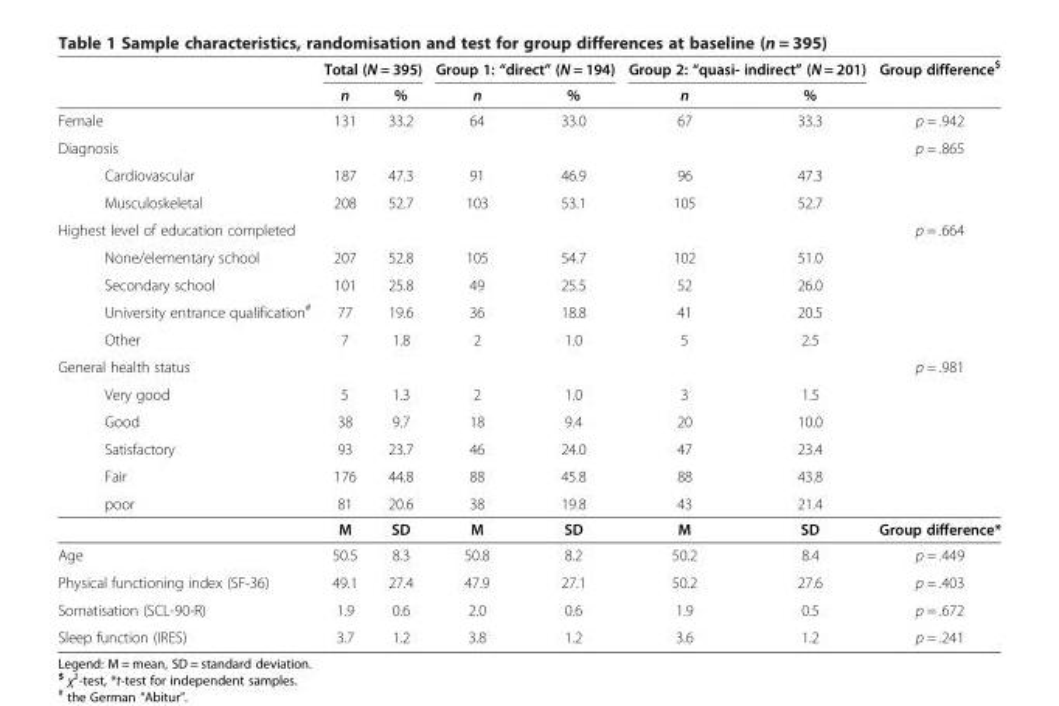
<table><thead><tr><td rowspan="2"></td><td colspan="2">Total (N = 395)</td><td colspan="2">Group 1: “direct” (N = 194)</td><td colspan="2">Group 2: “quasi- indirect” (N = 201)</td><td rowspan="2">Group difference<sup>$</sup></td></tr><tr><td>n</td><td>%</td><td>n</td><td>%</td><td>n</td><td>%</td></tr></thead><tbody><tr><td>Female</td><td>131</td><td>33.2</td><td>64</td><td>33.0</td><td>67</td><td>33.3</td><td>p = .942</td></tr><tr><td colspan="7">Diagnosis</td><td rowspan="3">p = .865</td></tr><tr><td>Cardiovascular</td><td>187</td><td>47.3</td><td>91</td><td>46.9</td><td>96</td><td>47.3</td></tr><tr><td>Musculoskeletal</td><td>208</td><td>52.7</td><td>103</td><td>53.1</td><td>105</td><td>52.7</td></tr><tr><td colspan="7">Highest level of education completed</td><td rowspan="5">p = .664</td></tr><tr><td>None/elementary school</td><td>207</td><td>52.8</td><td>105</td><td>54.7</td><td>102</td><td>51.0</td></tr><tr><td>Secondary school</td><td>101</td><td>25.8</td><td>49</td><td>25.5</td><td>52</td><td>26.0</td></tr><tr><td>University entrance qualification<sup>#</sup></td><td>77</td><td>19.6</td><td>36</td><td>18.8</td><td>41</td><td>20.5</td></tr><tr><td>Other</td><td>7</td><td>1.8</td><td>2</td><td>1.0</td><td>5</td><td>2.5</td></tr><tr><td colspan="7">General health status</td><td rowspan="6">p = .981</td></tr><tr><td>Very good</td><td>5</td><td>1.3</td><td>2</td><td>1.0</td><td>3</td><td>1.5</td></tr><tr><td>Good</td><td>38</td><td>9.7</td><td>18</td><td>9.4</td><td>20</td><td>10.0</td></tr><tr><td>Satisfactory</td><td>93</td><td>23.7</td><td>46</td><td>24.0</td><td>47</td><td>23.4</td></tr><tr><td>Fair</td><td>176</td><td>44.8</td><td>88</td><td>45.8</td><td>88</td><td>43.8</td></tr><tr><td rowspan="2">poor</td><td>81</td><td>20.6</td><td>38</td><td>19.8</td><td>43</td><td>21.4</td></tr><tr><td>M</td><td>SD</td><td>M</td><td>SD</td><td>M</td><td>SD</td><td>Group difference*</td></tr><tr><td>Age</td><td>50.5</td><td>8.3</td><td>50.8</td><td>8.2</td><td>50.2</td><td>8.4</td><td>p = .449</td></tr><tr><td>Physical functioning index (SF-36)</td><td>49.1</td><td>27.4</td><td>47.9</td><td>27.1</td><td>50.2</td><td>27.6</td><td>p = .403</td></tr><tr><td>Somatisation (SCL-90-R)</td><td>1.9</td><td>0.6</td><td>2.0</td><td>0.6</td><td>1.9</td><td>0.5</td><td>p = .672</td></tr><tr><td>Sleep function (IRES)</td><td>3.7</td><td>1.2</td><td>3.8</td><td>1.2</td><td>3.6</td><td>1.2</td><td>p = .241</td></tr></tbody></table>